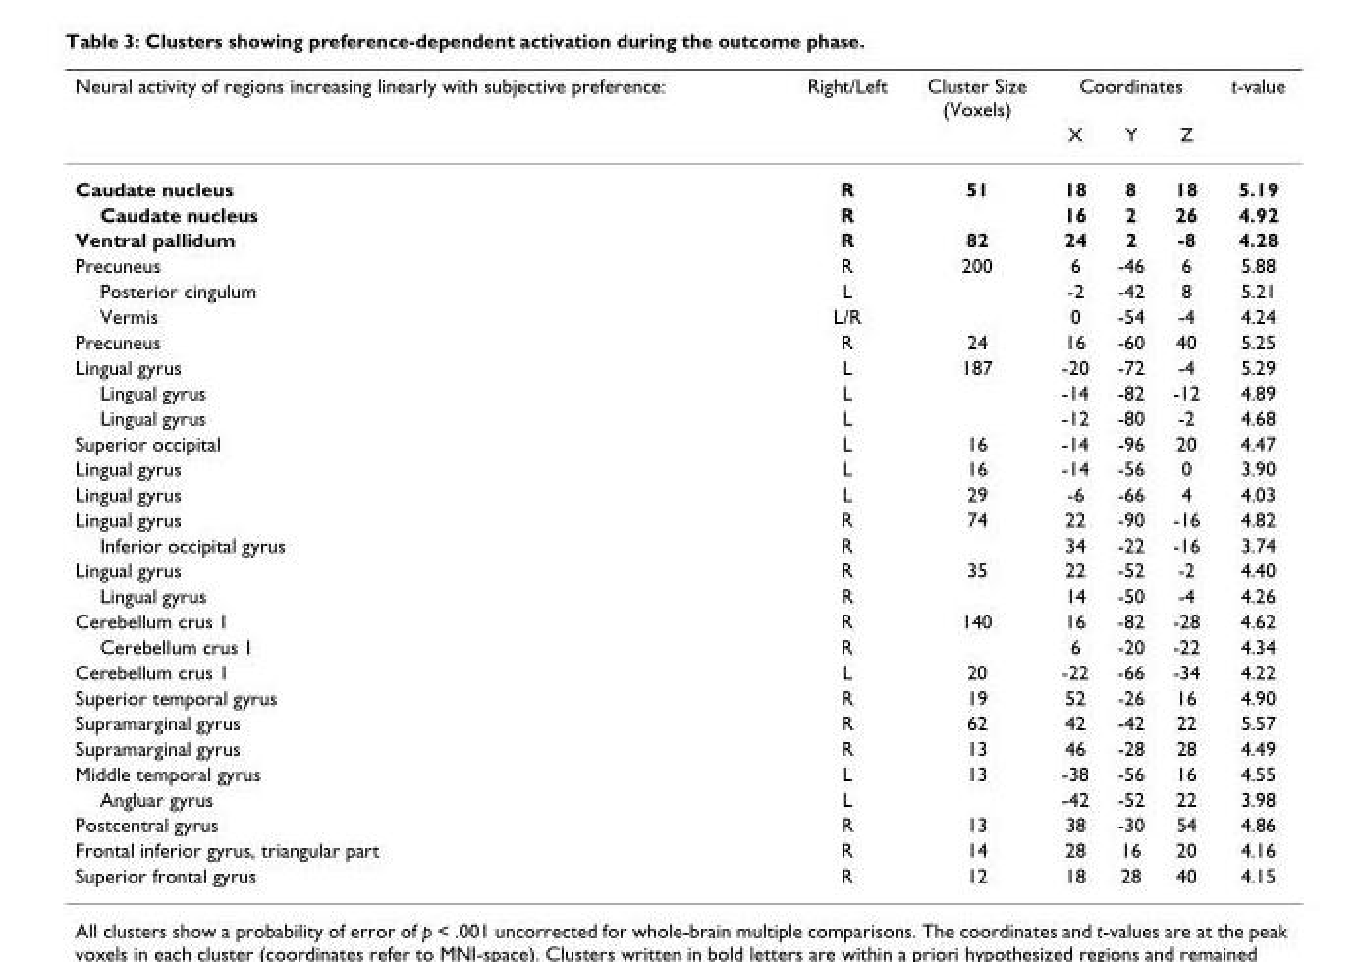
<table><thead><tr><td rowspan="2">Neural activity of regions increasing linearly with subjective preference:</td><td rowspan="2">Right/Left</td><td rowspan="2">Cluster Size (Voxels)</td><td colspan="3">Coordinates</td><td rowspan="2">t-value</td></tr><tr><td>X</td><td>Y</td><td>Z</td></tr></thead><tbody><tr><td>Caudate nucleus</td><td>R</td><td>51</td><td>18</td><td>8</td><td>18</td><td>5.19</td></tr><tr><td>Caudate nucleus</td><td>R</td><td></td><td>16</td><td>2</td><td>26</td><td>4.92</td></tr><tr><td>Ventral pallidum</td><td>R</td><td>82</td><td>24</td><td>2</td><td>-8</td><td>4.28</td></tr><tr><td>Precuneus</td><td>R</td><td>200</td><td>6</td><td>-46</td><td>6</td><td>5.88</td></tr><tr><td>Posterior cingulum</td><td>L</td><td></td><td>-2</td><td>-42</td><td>8</td><td>5.21</td></tr><tr><td>Vermis</td><td>L/R</td><td></td><td>0</td><td>-54</td><td>-4</td><td>4.24</td></tr><tr><td>Precuneus</td><td>R</td><td>24</td><td>16</td><td>-60</td><td>40</td><td>5.25</td></tr><tr><td>Lingual gyrus</td><td>L</td><td>187</td><td>-20</td><td>-72</td><td>-4</td><td>5.29</td></tr><tr><td>Lingual gyrus</td><td>L</td><td></td><td>-14</td><td>-82</td><td>-12</td><td>4.89</td></tr><tr><td>Lingual gyrus</td><td>L</td><td></td><td>-12</td><td>-80</td><td>-2</td><td>4.68</td></tr><tr><td>Superior occipital</td><td>L</td><td>16</td><td>-14</td><td>-96</td><td>20</td><td>4.47</td></tr><tr><td>Lingual gyrus</td><td>L</td><td>16</td><td>-14</td><td>-56</td><td>0</td><td>3.90</td></tr><tr><td>Lingual gyrus</td><td>L</td><td>29</td><td>-6</td><td>-66</td><td>4</td><td>4.03</td></tr><tr><td>Lingual gyrus</td><td>R</td><td>74</td><td>22</td><td>-90</td><td>-16</td><td>4.82</td></tr><tr><td>Inferior occipital gyrus</td><td>R</td><td></td><td>34</td><td>-22</td><td>-16</td><td>3.74</td></tr><tr><td>Lingual gyrus</td><td>R</td><td>35</td><td>22</td><td>-52</td><td>-2</td><td>4.40</td></tr><tr><td>Lingual gyrus</td><td>R</td><td></td><td>14</td><td>-50</td><td>-4</td><td>4.26</td></tr><tr><td>Cerebellum crus 1</td><td>R</td><td>140</td><td>16</td><td>-82</td><td>-28</td><td>4.62</td></tr><tr><td>Cerebellum crus 1</td><td>R</td><td></td><td>6</td><td>-20</td><td>-22</td><td>4.34</td></tr><tr><td>Cerebellum crus 1</td><td>L</td><td>20</td><td>-22</td><td>-66</td><td>-34</td><td>4.22</td></tr><tr><td>Superior temporal gyrus</td><td>R</td><td>19</td><td>52</td><td>-26</td><td>16</td><td>4.90</td></tr><tr><td>Supramarginal gyrus</td><td>R</td><td>62</td><td>42</td><td>-42</td><td>22</td><td>5.57</td></tr><tr><td>Supramarginal gyrus</td><td>R</td><td>13</td><td>46</td><td>-28</td><td>28</td><td>4.49</td></tr><tr><td>Middle temporal gyrus</td><td>L</td><td>13</td><td>-38</td><td>-56</td><td>16</td><td>4.55</td></tr><tr><td>Angluar gyrus</td><td>L</td><td></td><td>-42</td><td>-52</td><td>22</td><td>3.98</td></tr><tr><td>Postcentral gyrus</td><td>R</td><td>13</td><td>38</td><td>-30</td><td>54</td><td>4.86</td></tr><tr><td>Frontal inferior gyrus, triangular part</td><td>R</td><td>14</td><td>28</td><td>16</td><td>20</td><td>4.16</td></tr><tr><td>Superior frontal gyrus</td><td>R</td><td>12</td><td>18</td><td>28</td><td>40</td><td>4.15</td></tr></tbody></table>